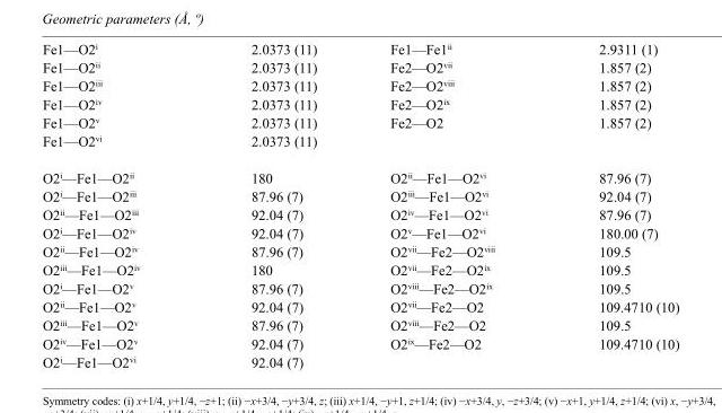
<table><tbody><tr><td>Fe1—O2<sup>i</sup></td><td>2.0373 (11)</td><td>Fe1—Fe1<sup>ii</sup></td><td>2.9311 (1)</td></tr><tr><td>Fe1—O2<sup>ii</sup></td><td>2.0373 (11)</td><td>Fe2—O2<sup>vii</sup></td><td>1.857 (2)</td></tr><tr><td>Fe1—O2<sup>iii</sup></td><td>2.0373 (11)</td><td>Fe2—O2<sup>viii</sup></td><td>1.857 (2)</td></tr><tr><td>Fe1—O2<sup>iv</sup></td><td>2.0373 (11)</td><td>Fe2—O2<sup>ix</sup></td><td>1.857 (2)</td></tr><tr><td>Fe1—O2<sup>v</sup></td><td>2.0373 (11)</td><td>Fe2—O2</td><td>1.857 (2)</td></tr><tr><td>Fe1—O2<sup>vi</sup></td><td>2.0373 (11)</td><td></td><td></td></tr><tr><td>O2<sup>i</sup>—Fe1—O2<sup>ii</sup></td><td>180</td><td>O2<sup>ii</sup>—Fe1—O2<sup>vi</sup></td><td>87.96 (7)</td></tr><tr><td>O2<sup>i</sup>—Fe1—O2<sup>iii</sup></td><td>87.96 (7)</td><td>O2<sup>iii</sup>—Fe1—O2<sup>vi</sup></td><td>92.04 (7)</td></tr><tr><td>O2<sup>ii</sup>—Fe1—O2<sup>iii</sup></td><td>92.04 (7)</td><td>O2<sup>iv</sup>—Fe1—O2<sup>vi</sup></td><td>87.96 (7)</td></tr><tr><td>O2<sup>i</sup>—Fe1—O2<sup>iv</sup></td><td>92.04 (7)</td><td>O2<sup>v</sup>—Fe1—O2<sup>vi</sup></td><td>180.00 (7)</td></tr><tr><td>O2<sup>ii</sup>—Fe1—O2<sup>iv</sup></td><td>87.96 (7)</td><td>O2<sup>vii</sup>—Fe2—O2<sup>viii</sup></td><td>109.5</td></tr><tr><td>O2<sup>iii</sup>—Fe1—O2<sup>iv</sup></td><td>180</td><td>O2<sup>vii</sup>—Fe2—O2<sup>ix</sup></td><td>109.5</td></tr><tr><td>O2<sup>i</sup>—Fe1—O2<sup>v</sup></td><td>87.96 (7)</td><td>O2<sup>viii</sup>—Fe2—O2<sup>ix</sup></td><td>109.5</td></tr><tr><td>O2<sup>ii</sup>—Fe1—O2<sup>v</sup></td><td>92.04 (7)</td><td>O2<sup>vii</sup>—Fe2—O2</td><td>109.4710 (10)</td></tr><tr><td>O2<sup>iii</sup>—Fe1—O2<sup>v</sup></td><td>87.96 (7)</td><td>O2<sup>viii</sup>—Fe2—O2</td><td>109.5</td></tr><tr><td>O2<sup>iv</sup>—Fe1—O2<sup>v</sup></td><td>92.04 (7)</td><td>O2<sup>ix</sup>—Fe2—O2</td><td>109.4710 (10)</td></tr><tr><td>O2<sup>i</sup>—Fe1—O2<sup>vi</sup></td><td>92.04 (7)</td><td></td><td></td></tr></tbody></table>